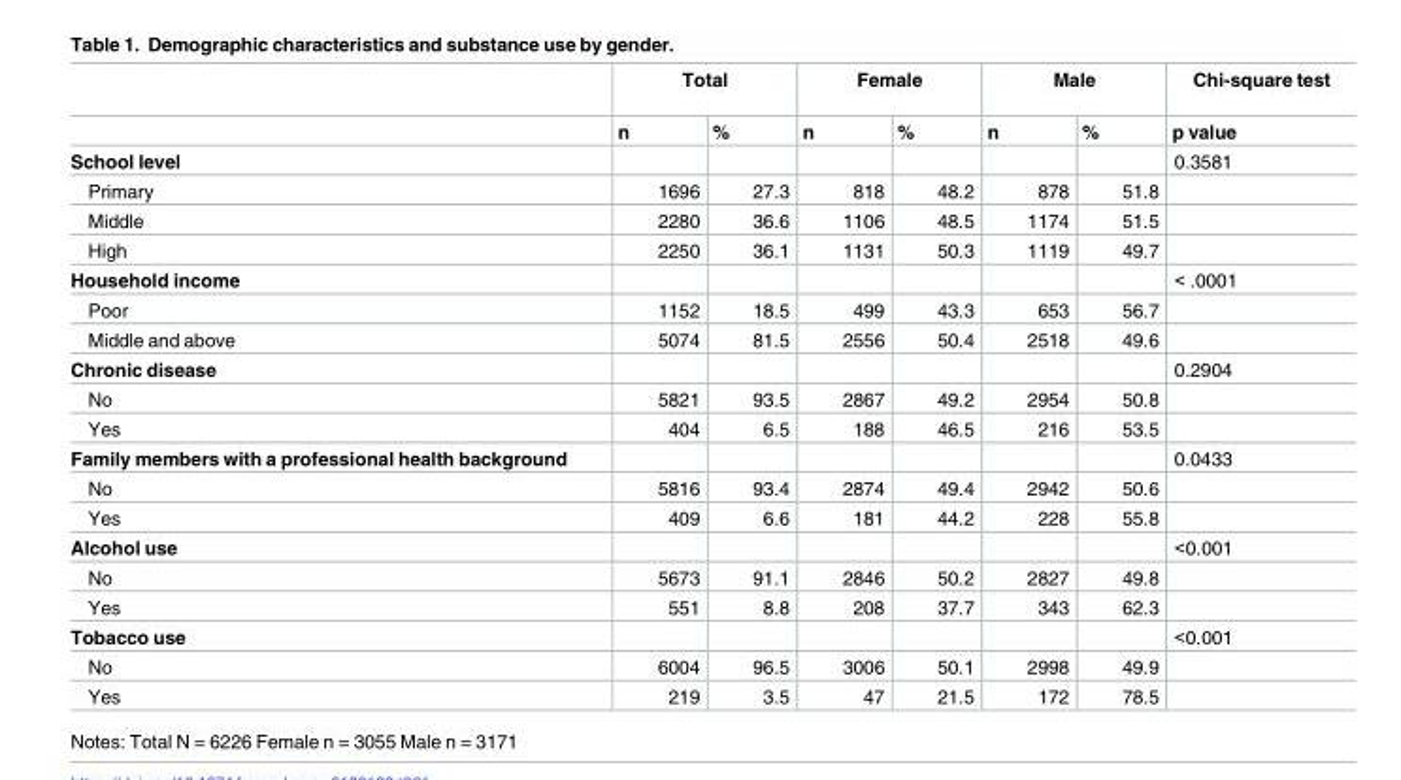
<table><thead><tr><td rowspan="2"></td><td colspan="2">Total</td><td colspan="2">Female</td><td colspan="2">Male</td><td rowspan="2">Chi-square test p value</td></tr><tr><td>n</td><td>%</td><td>n</td><td>%</td><td>n</td><td>%</td></tr></thead><tbody><tr><td>School level</td><td></td><td></td><td></td><td></td><td></td><td></td><td>0.3581</td></tr><tr><td>Primary</td><td>1696</td><td>27.3</td><td>818</td><td>48.2</td><td>878</td><td>51.8</td><td></td></tr><tr><td>Middle</td><td>2280</td><td>36.6</td><td>1106</td><td>48.5</td><td>1174</td><td>51.5</td><td></td></tr><tr><td>High</td><td>2250</td><td>36.1</td><td>1131</td><td>50.3</td><td>1119</td><td>49.7</td><td></td></tr><tr><td>Household income</td><td></td><td></td><td></td><td></td><td></td><td></td><td>&lt; .0001</td></tr><tr><td>Poor</td><td>1152</td><td>18.5</td><td>499</td><td>43.3</td><td>653</td><td>56.7</td><td></td></tr><tr><td>Middle and above</td><td>5074</td><td>81.5</td><td>2556</td><td>50.4</td><td>2518</td><td>49.6</td><td></td></tr><tr><td>Chronic disease</td><td></td><td></td><td></td><td></td><td></td><td></td><td>0.2904</td></tr><tr><td>No</td><td>5821</td><td>93.5</td><td>2867</td><td>49.2</td><td>2954</td><td>50.8</td><td></td></tr><tr><td>Yes</td><td>404</td><td>6.5</td><td>188</td><td>46.5</td><td>216</td><td>53.5</td><td></td></tr><tr><td>Family members with a professional health background</td><td></td><td></td><td></td><td></td><td></td><td></td><td>0.0433</td></tr><tr><td>No</td><td>5816</td><td>93.4</td><td>2874</td><td>49.4</td><td>2942</td><td>50.6</td><td></td></tr><tr><td>Yes</td><td>409</td><td>6.6</td><td>181</td><td>44.2</td><td>228</td><td>55.8</td><td></td></tr><tr><td>Alcohol use</td><td></td><td></td><td></td><td></td><td></td><td></td><td>&lt;0.001</td></tr><tr><td>No</td><td>5673</td><td>91.1</td><td>2846</td><td>50.2</td><td>2827</td><td>49.8</td><td></td></tr><tr><td>Yes</td><td>551</td><td>8.8</td><td>208</td><td>37.7</td><td>343</td><td>62.3</td><td></td></tr><tr><td>Tobacco use</td><td></td><td></td><td></td><td></td><td></td><td></td><td>&lt;0.001</td></tr><tr><td>No</td><td>6004</td><td>96.5</td><td>3006</td><td>50.1</td><td>2998</td><td>49.9</td><td></td></tr><tr><td>Yes</td><td>219</td><td>3.5</td><td>47</td><td>21.5</td><td>172</td><td>78.5</td><td></td></tr></tbody></table>